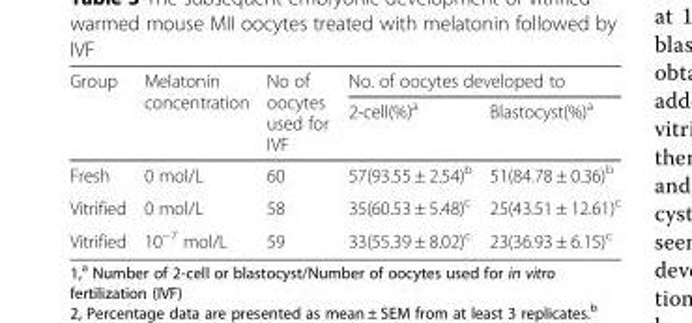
<table><thead><tr><td rowspan="2">Group</td><td rowspan="2">Melatonin concentration</td><td rowspan="2">No of oocytes used for IVF</td><td colspan="2">No. of oocytes developed to</td></tr><tr><td>2-cell(%)<sup>a</sup></td><td>Blastocyst(%)<sup>a</sup></td></tr></thead><tbody><tr><td>Fresh</td><td>0 mol/L</td><td>60</td><td>57(93.55 ± 2.54)<sup>b</sup></td><td>51(84.78 ± 0.36)<sup>b</sup></td></tr><tr><td>Vitrified</td><td>0 mol/L</td><td>58</td><td>35(60.53 ± 5.48)<sup>c</sup></td><td>25(43.51 ± 12.61)<sup>c</sup></td></tr><tr><td>Vitrified</td><td>10<sup>−7</sup> mol/L</td><td>59</td><td>33(55.39 ± 8.02)<sup>c</sup></td><td>23(36.93 ± 6.15)<sup>c</sup></td></tr></tbody></table>